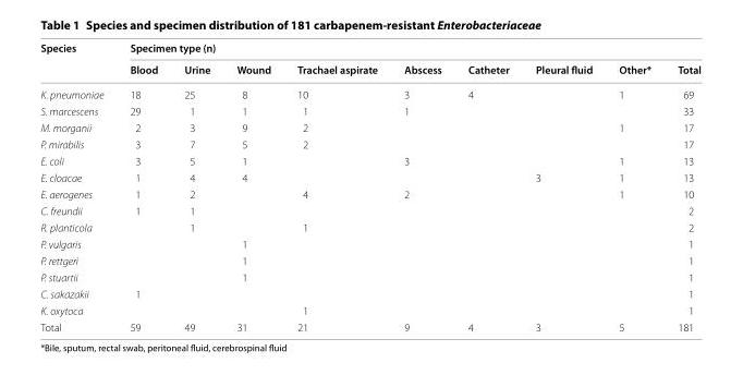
<table><thead><tr><td rowspan="2">Species</td><td colspan="9">Specimen type (n)</td></tr><tr><td>Blood</td><td>Urine</td><td>Wound</td><td>Trachael aspirate</td><td>Abscess</td><td>Catheter</td><td>Pleural fluid</td><td>Other*</td><td>Total</td></tr></thead><tbody><tr><td>K. pneumoniae</td><td>18</td><td>25</td><td>8</td><td>10</td><td>3</td><td>4</td><td></td><td>1</td><td>69</td></tr><tr><td>S. marcescens</td><td>29</td><td>1</td><td>1</td><td>1</td><td>1</td><td></td><td></td><td></td><td>33</td></tr><tr><td>M. morganii</td><td>2</td><td>3</td><td>9</td><td>2</td><td></td><td></td><td></td><td>1</td><td>17</td></tr><tr><td>P. mirabilis</td><td>3</td><td>7</td><td>5</td><td>2</td><td></td><td></td><td></td><td></td><td>17</td></tr><tr><td>E. coli</td><td>3</td><td>5</td><td>1</td><td></td><td>3</td><td></td><td></td><td>1</td><td>13</td></tr><tr><td>E. cloacae</td><td>1</td><td>4</td><td>4</td><td></td><td></td><td></td><td>3</td><td>1</td><td>13</td></tr><tr><td>E. aerogenes</td><td>1</td><td>2</td><td></td><td>4</td><td>2</td><td></td><td></td><td>1</td><td>10</td></tr><tr><td>C. freundii</td><td>1</td><td>1</td><td></td><td></td><td></td><td></td><td></td><td></td><td>2</td></tr><tr><td>R. planticola</td><td></td><td>1</td><td></td><td>1</td><td></td><td></td><td></td><td></td><td>2</td></tr><tr><td>P. vulgaris</td><td></td><td></td><td>1</td><td></td><td></td><td></td><td></td><td></td><td>1</td></tr><tr><td>P. rettgeri</td><td></td><td></td><td>1</td><td></td><td></td><td></td><td></td><td></td><td>1</td></tr><tr><td>P. stuartii</td><td></td><td></td><td>1</td><td></td><td></td><td></td><td></td><td></td><td>1</td></tr><tr><td>C. sakazakii</td><td>1</td><td></td><td></td><td></td><td></td><td></td><td></td><td></td><td>1</td></tr><tr><td>K. oxytoca</td><td></td><td></td><td></td><td>1</td><td></td><td></td><td></td><td></td><td>1</td></tr><tr><td>Total</td><td>59</td><td>49</td><td>31</td><td>21</td><td>9</td><td>4</td><td>3</td><td>5</td><td>181</td></tr></tbody></table>